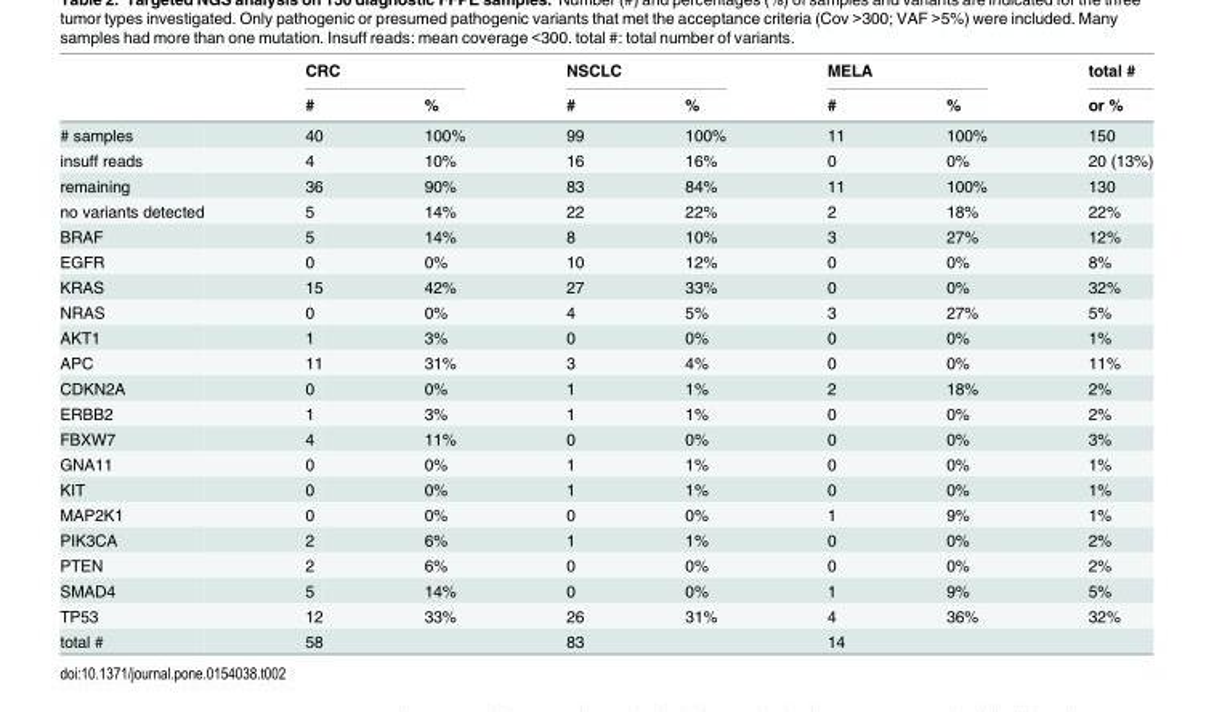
<table><thead><tr><td rowspan="2"></td><td colspan="2">CRC</td><td colspan="2">NSCLC</td><td colspan="2">MELA</td><td rowspan="2">total # or %</td></tr><tr><td>#</td><td>%</td><td>#</td><td>%</td><td>#</td><td>%</td></tr></thead><tbody><tr><td># samples</td><td>40</td><td>100%</td><td>99</td><td>100%</td><td>11</td><td>100%</td><td>150</td></tr><tr><td>insuff reads</td><td>4</td><td>10%</td><td>16</td><td>16%</td><td>0</td><td>0%</td><td>20 (13%)</td></tr><tr><td>remaining</td><td>36</td><td>90%</td><td>83</td><td>84%</td><td>11</td><td>100%</td><td>130</td></tr><tr><td>no variants detected</td><td>5</td><td>14%</td><td>22</td><td>22%</td><td>2</td><td>18%</td><td>22%</td></tr><tr><td>BRAF</td><td>5</td><td>14%</td><td>8</td><td>10%</td><td>3</td><td>27%</td><td>12%</td></tr><tr><td>EGFR</td><td>0</td><td>0%</td><td>10</td><td>12%</td><td>0</td><td>0%</td><td>8%</td></tr><tr><td>KRAS</td><td>15</td><td>42%</td><td>27</td><td>33%</td><td>0</td><td>0%</td><td>32%</td></tr><tr><td>NRAS</td><td>0</td><td>0%</td><td>4</td><td>5%</td><td>3</td><td>27%</td><td>5%</td></tr><tr><td>AKT1</td><td>1</td><td>3%</td><td>0</td><td>0%</td><td>0</td><td>0%</td><td>1%</td></tr><tr><td>APC</td><td>11</td><td>31%</td><td>3</td><td>4%</td><td>0</td><td>0%</td><td>11%</td></tr><tr><td>CDKN2A</td><td>0</td><td>0%</td><td>1</td><td>1%</td><td>2</td><td>18%</td><td>2%</td></tr><tr><td>ERBB2</td><td>1</td><td>3%</td><td>1</td><td>1%</td><td>0</td><td>0%</td><td>2%</td></tr><tr><td>FBXW7</td><td>4</td><td>11%</td><td>0</td><td>0%</td><td>0</td><td>0%</td><td>3%</td></tr><tr><td>GNA11</td><td>0</td><td>0%</td><td>1</td><td>1%</td><td>0</td><td>0%</td><td>1%</td></tr><tr><td>KIT</td><td>0</td><td>0%</td><td>1</td><td>1%</td><td>0</td><td>0%</td><td>1%</td></tr><tr><td>MAP2K1</td><td>0</td><td>0%</td><td>0</td><td>0%</td><td>1</td><td>9%</td><td>1%</td></tr><tr><td>PIK3CA</td><td>2</td><td>6%</td><td>1</td><td>1%</td><td>0</td><td>0%</td><td>2%</td></tr><tr><td>PTEN</td><td>2</td><td>6%</td><td>0</td><td>0%</td><td>0</td><td>0%</td><td>2%</td></tr><tr><td>SMAD4</td><td>5</td><td>14%</td><td>0</td><td>0%</td><td>1</td><td>9%</td><td>5%</td></tr><tr><td>TP53</td><td>12</td><td>33%</td><td>26</td><td>31%</td><td>4</td><td>36%</td><td>32%</td></tr><tr><td>total #</td><td>58</td><td></td><td>83</td><td></td><td>14</td><td></td><td></td></tr></tbody></table>